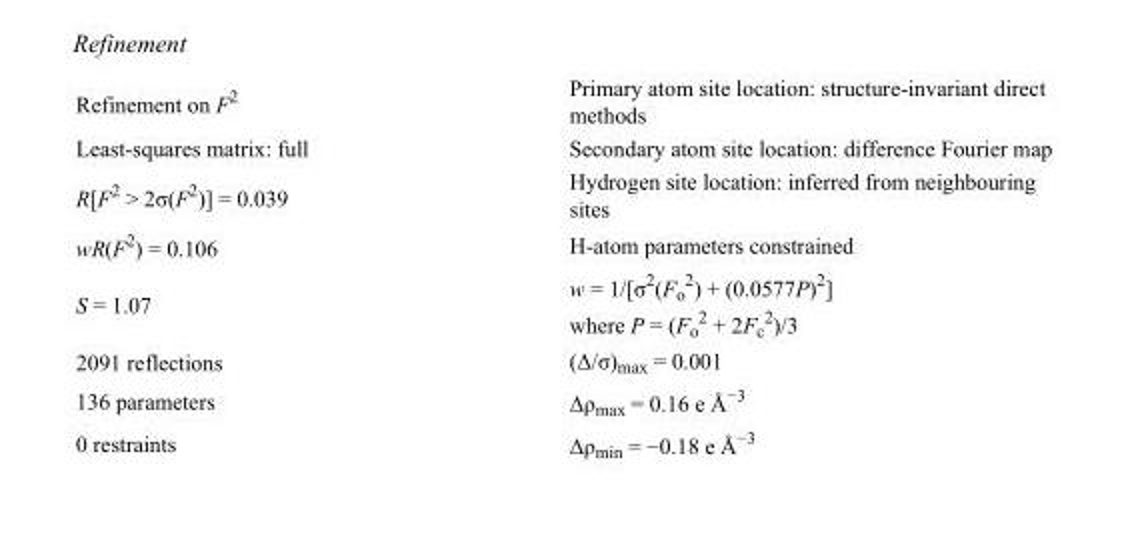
<table><tbody><tr><td>Refinement on F<sup>2</sup></td><td>Primary atom site location: structure-invariant direct methods</td></tr><tr><td>Least-squares matrix: full</td><td>Secondary atom site location: difference Fourier map</td></tr><tr><td>R[F<sup>2</sup> &gt; 2σ(F<sup>2</sup>)] = 0.039</td><td>Hydrogen site location: inferred from neighbouring sites</td></tr><tr><td>wR(F<sup>2</sup>) = 0.106</td><td>H-atom parameters constrained</td></tr><tr><td>S = 1.07</td><td>w = 1/[σ<sup>2</sup>(F<sub>o</sub> <sup>2</sup>) + (0.0577P)<sup>2</sup>] where P = (F<sub>o</sub> <sup>2</sup> + 2F<sub>c</sub> <sup>2</sup>)/3</td></tr><tr><td>2091 reflections</td><td>(Δ/σ)<sub>max</sub> = 0.001</td></tr><tr><td>136 parameters</td><td>Δρ<sub>max</sub> = 0.16 e Å<sup>−3</sup></td></tr><tr><td>0 restraints</td><td>Δρ<sub>min</sub> = −0.18 e Å<sup>−3</sup></td></tr></tbody></table>